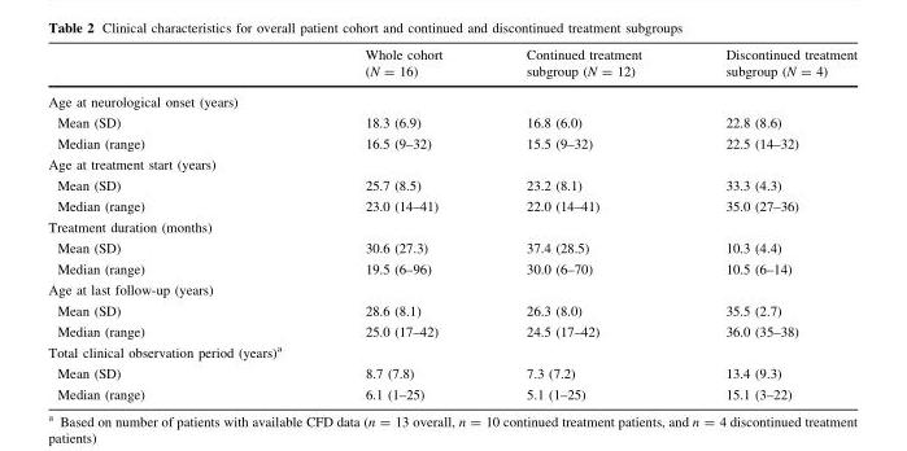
<table><thead><tr><td></td><td>Whole cohort (N = 16)</td><td>Continued treatment subgroup (N = 12)</td><td>Discontinued treatment subgroup (N = 4)</td></tr></thead><tbody><tr><td colspan="4">Age at neurological onset (years)</td></tr><tr><td>Mean (SD)</td><td>18.3 (6.9)</td><td>16.8 (6.0)</td><td>22.8 (8.6)</td></tr><tr><td>Median (range)</td><td>16.5 (9–32)</td><td>15.5 (9–32)</td><td>22.5 (14–32)</td></tr><tr><td colspan="4">Age at treatment start (years)</td></tr><tr><td>Mean (SD)</td><td>25.7 (8.5)</td><td>23.2 (8.1)</td><td>33.3 (4.3)</td></tr><tr><td>Median (range)</td><td>23.0 (14–41)</td><td>22.0 (14–41)</td><td>35.0 (27–36)</td></tr><tr><td colspan="4">Treatment duration (months)</td></tr><tr><td>Mean (SD)</td><td>30.6 (27.3)</td><td>37.4 (28.5)</td><td>10.3 (4.4)</td></tr><tr><td>Median (range)</td><td>19.5 (6–96)</td><td>30.0 (6–70)</td><td>10.5 (6–14)</td></tr><tr><td colspan="4">Age at last follow-up (years)</td></tr><tr><td>Mean (SD)</td><td>28.6 (8.1)</td><td>26.3 (8.0)</td><td>35.5 (2.7)</td></tr><tr><td>Median (range)</td><td>25.0 (17–42)</td><td>24.5 (17–42)</td><td>36.0 (35–38)</td></tr><tr><td colspan="4">Total clinical observation period (years)<sup>a</sup></td></tr><tr><td>Mean (SD)</td><td>8.7 (7.8)</td><td>7.3 (7.2)</td><td>13.4 (9.3)</td></tr><tr><td>Median (range)</td><td>6.1 (1–25)</td><td>5.1 (1–25)</td><td>15.1 (3–22)</td></tr></tbody></table>